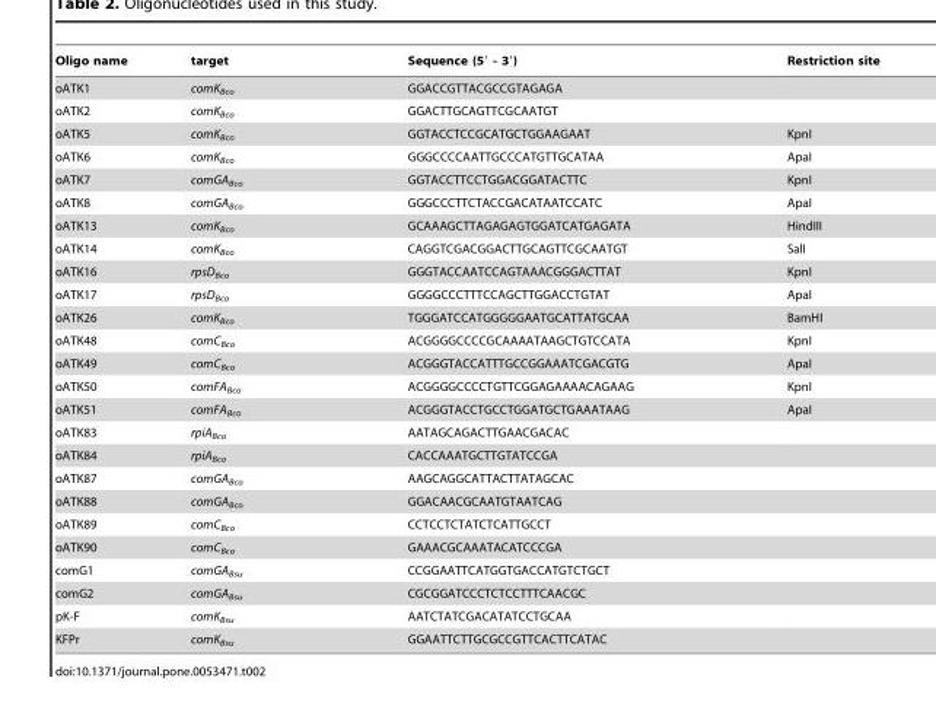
<table><thead><tr><td>Oligo name</td><td>target</td><td>Sequence (5′ - 3′)</td><td>Restriction site</td></tr></thead><tbody><tr><td>oATK1</td><td>comK<sub>Bco</sub></td><td>GGACCGTTACGCCGTAGAGA</td><td></td></tr><tr><td>oATK2</td><td>comK<sub>Bco</sub></td><td>GGACTTGCAGTTCGCAATGT</td><td></td></tr><tr><td>oATK5</td><td>comK<sub>Bco</sub></td><td>GGTACCTCCGCATGCTGGAAGAAT</td><td>KpnI</td></tr><tr><td>oATK6</td><td>comK<sub>Bco</sub></td><td>GGGCCCCAATTGCCCATGTTGCATAA</td><td>ApaI</td></tr><tr><td>oATK7</td><td>comGA<sub>Bco</sub></td><td>GGTACCTTCCTGGACGGATACTTC</td><td>KpnI</td></tr><tr><td>oATK8</td><td>comGA<sub>Bco</sub></td><td>GGGCCCTTCTACCGACATAATCCATC</td><td>ApaI</td></tr><tr><td>oATK13</td><td>comK<sub>Bco</sub></td><td>GCAAAGCTTAGAGAGTGGATCATGAGATA</td><td>HindIII</td></tr><tr><td>oATK14</td><td>comK<sub>Bco</sub></td><td>CAGGTCGACGGACTTGCAGTTCGCAATGT</td><td>SalI</td></tr><tr><td>oATK16</td><td>rpsD<sub>Bco</sub></td><td>GGGTACCAATCCAGTAAACGGGACTTAT</td><td>KpnI</td></tr><tr><td>oATK17</td><td>rpsD<sub>Bco</sub></td><td>GGGGCCCTTTCCAGCTTGGACCTGTAT</td><td>ApaI</td></tr><tr><td>oATK26</td><td>comK<sub>Bco</sub></td><td>TGGGATCCATGGGGGAATGCATTATGCAA</td><td>BamHI</td></tr><tr><td>oATK48</td><td>comC<sub>Bco</sub></td><td>ACGGGGCCCCGCAAAATAAGCTGTCCATA</td><td>KpnI</td></tr><tr><td>oATK49</td><td>comC<sub>Bco</sub></td><td>ACGGGTACCATTTGCCGGAAATCGACGTG</td><td>ApaI</td></tr><tr><td>oATK50</td><td>comFA<sub>Bco</sub></td><td>ACGGGGCCCCTGTTCGGAGAAAACAGAAG</td><td>KpnI</td></tr><tr><td>oATK51</td><td>comFA<sub>Bco</sub></td><td>ACGGGTACCTGCCTGGATGCTGAAATAAG</td><td>ApaI</td></tr><tr><td>oATK83</td><td>rpiA<sub>Bco</sub></td><td>AATAGCAGACTTGAACGACAC</td><td></td></tr><tr><td>oATK84</td><td>rpiA<sub>Bco</sub></td><td>CACCAAATGCTTGTATCCGA</td><td></td></tr><tr><td>oATK87</td><td>comGA<sub>Bco</sub></td><td>AAGCAGGCATTACTTATAGCAC</td><td></td></tr><tr><td>oATK88</td><td>comGA<sub>Bco</sub></td><td>GGACAACGCAATGTAATCAG</td><td></td></tr><tr><td>oATK89</td><td>comC<sub>Bco</sub></td><td>CCTCCTCTATCTCATTGCCT</td><td></td></tr><tr><td>oATK90</td><td>comC<sub>Bco</sub></td><td>GAAACGCAAATACATCCCGA</td><td></td></tr><tr><td>comG1</td><td>comGA<sub>Bsu</sub></td><td>CCGGAATTCATGGTGACCATGTCTGCT</td><td></td></tr><tr><td>comG2</td><td>comGA<sub>Bsu</sub></td><td>CGCGGATCCCTCTCCTTTCAACGC</td><td></td></tr><tr><td>pK-F</td><td>comK<sub>Bsu</sub></td><td>AATCTATCGACATATCCTGCAA</td><td></td></tr><tr><td>KFPr</td><td>comK<sub>Bsu</sub></td><td>GGAATTCTTGCGCCGTTCACTTCATAC</td><td></td></tr></tbody></table>